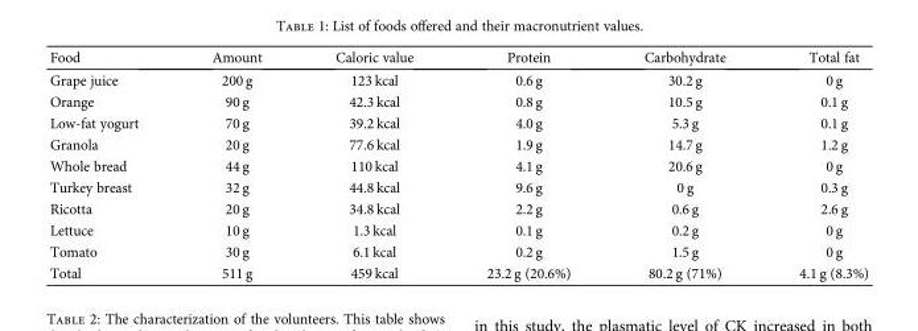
<table><thead><tr><td>Food</td><td>Amount</td><td>Caloric value</td><td>Protein</td><td>Carbohydrate</td><td>Total fat</td></tr></thead><tbody><tr><td>Grape juice</td><td>200 g</td><td>123 kcal</td><td>0.6 g</td><td>30.2 g</td><td>0 g</td></tr><tr><td>Orange</td><td>90 g</td><td>42.3 kcal</td><td>0.8 g</td><td>10.5 g</td><td>0.1 g</td></tr><tr><td>Low-fat yogurt</td><td>70 g</td><td>39.2 kcal</td><td>4.0 g</td><td>5.3 g</td><td>0.1 g</td></tr><tr><td>Granola</td><td>20 g</td><td>77.6 kcal</td><td>1.9 g</td><td>14.7 g</td><td>1.2 g</td></tr><tr><td>Whole bread</td><td>44 g</td><td>110 kcal</td><td>4.1 g</td><td>20.6 g</td><td>0 g</td></tr><tr><td>Turkey breast</td><td>32 g</td><td>44.8 kcal</td><td>9.6 g</td><td>0 g</td><td>0.3 g</td></tr><tr><td>Ricotta</td><td>20 g</td><td>34.8 kcal</td><td>2.2 g</td><td>0.6 g</td><td>2.6 g</td></tr><tr><td>Lettuce</td><td>10 g</td><td>1.3 kcal</td><td>0.1 g</td><td>0.2 g</td><td>0 g</td></tr><tr><td>Tomato</td><td>30 g</td><td>6.1 kcal</td><td>0.2 g</td><td>1.5 g</td><td>0 g</td></tr><tr><td>Total</td><td>511 g</td><td>459 kcal</td><td>23.2 g (20.6%)</td><td>80.2 g (71%)</td><td>4.1 g (8.3%)</td></tr></tbody></table>